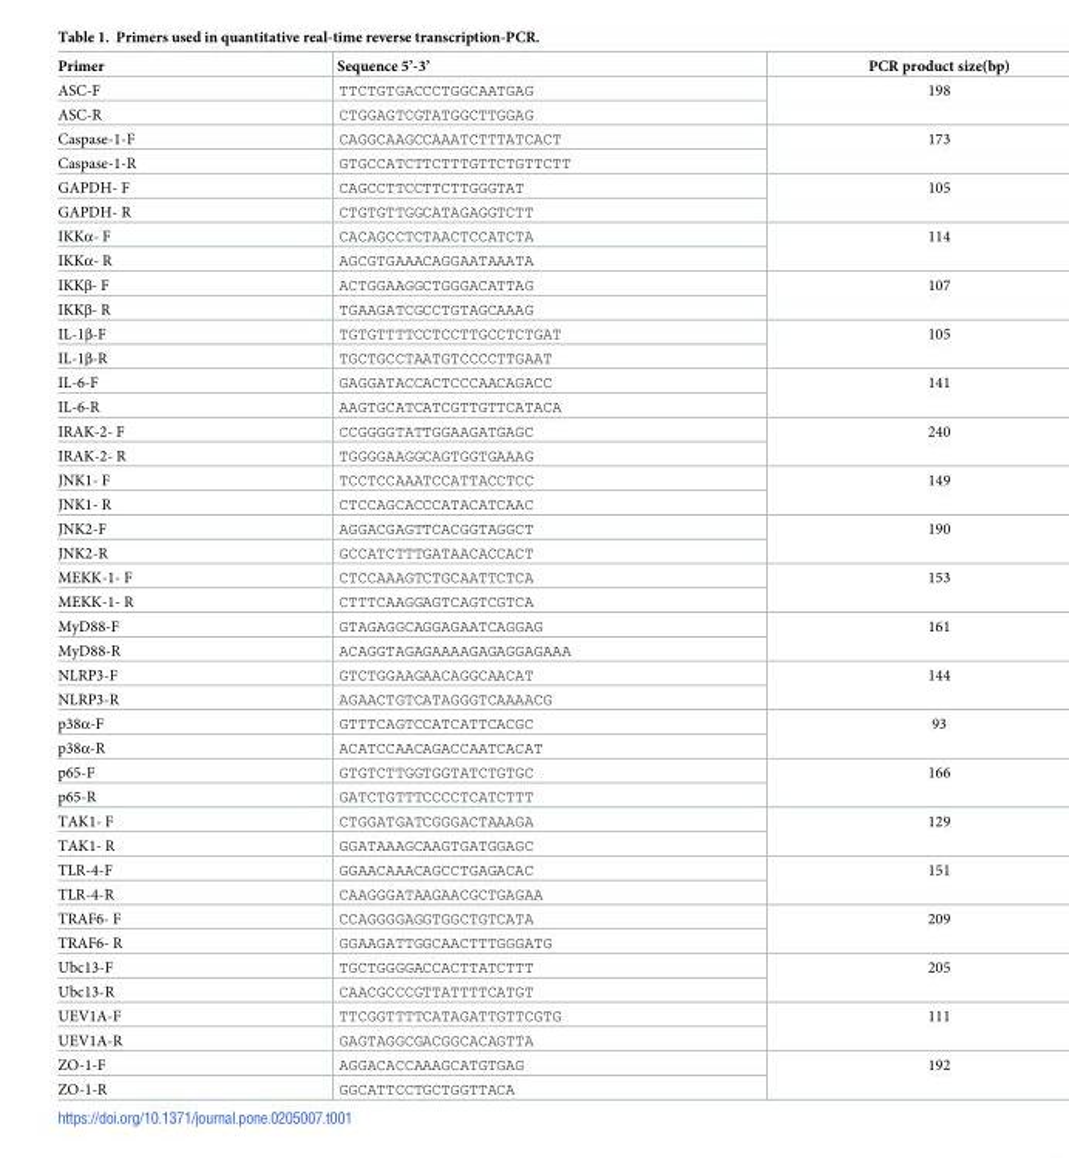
<table><thead><tr><td>Primer</td><td>Sequence 5’-3’</td><td>PCR product size(bp)</td></tr></thead><tbody><tr><td>ASC-F</td><td>TTCTGTGACCCTGGCAATGAG</td><td rowspan="2">198</td></tr><tr><td>ASC-R</td><td>CTGGAGTCGTATGGCTTGGAG</td></tr><tr><td>Caspase-1-F</td><td>CAGGCAAGCCAAATCTTTATCACT</td><td rowspan="2">173</td></tr><tr><td>Caspase-1-R</td><td>GTGCCATCTTCTTTGTTCTGTTCTT</td></tr><tr><td>GAPDH- F</td><td>CAGCCTTCCTTCTTGGGTAT</td><td rowspan="2">105</td></tr><tr><td>GAPDH- R</td><td>CTGTGTTGGCATAGAGGTCTT</td></tr><tr><td>IKKα- F</td><td>CACAGCCTCTAACTCCATCTA</td><td rowspan="2">114</td></tr><tr><td>IKKα- R</td><td>AGCGTGAAACAGGAATAAATA</td></tr><tr><td>IKKβ- F</td><td>ACTGGAAGGCTGGGACATTAG</td><td rowspan="2">107</td></tr><tr><td>IKKβ- R</td><td>TGAAGATCGCCTGTAGCAAAG</td></tr><tr><td>IL-1β-F</td><td>TGTGTTTTCCTCCTTGCCTCTGAT</td><td rowspan="2">105</td></tr><tr><td>IL-1β-R</td><td>TGCTGCCTAATGTCCCCTTGAAT</td></tr><tr><td>IL-6-F</td><td>GAGGATACCACTCCCAACAGACC</td><td rowspan="2">141</td></tr><tr><td>IL-6-R</td><td>AAGTGCATCATCGTTGTTCATACA</td></tr><tr><td>IRAK-2- F</td><td>CCGGGGTATTGGAAGATGAGC</td><td rowspan="2">240</td></tr><tr><td>IRAK-2- R</td><td>TGGGGAAGGCAGTGGTGAAAG</td></tr><tr><td>JNK1- F</td><td>TCCTCCAAATCCATTACCTCC</td><td rowspan="2">149</td></tr><tr><td>JNK1- R</td><td>CTCCAGCACCCATACATCAAC</td></tr><tr><td>JNK2-F</td><td>AGGACGAGTTCACGGTAGGCT</td><td rowspan="2">190</td></tr><tr><td>JNK2-R</td><td>GCCATCTTTGATAACACCACT</td></tr><tr><td>MEKK-1- F</td><td>CTCCAAAGTCTGCAATTCTCA</td><td rowspan="2">153</td></tr><tr><td>MEKK-1- R</td><td>CTTTCAAGGAGTCAGTCGTCA</td></tr><tr><td>MyD88-F</td><td>GTAGAGGCAGGAGAATCAGGAG</td><td rowspan="2">161</td></tr><tr><td>MyD88-R</td><td>ACAGGTAGAGAAAAGAGAGGAGAAA</td></tr><tr><td>NLRP3-F</td><td>GTCTGGAAGAACAGGCAACAT</td><td rowspan="2">144</td></tr><tr><td>NLRP3-R</td><td>AGAACTGTCATAGGGTCAAAACG</td></tr><tr><td>p38α-F</td><td>GTTTCAGTCCATCATTCACGC</td><td rowspan="2">93</td></tr><tr><td>p38α-R</td><td>ACATCCAACAGACCAATCACAT</td></tr><tr><td>p65-F</td><td>GTGTCTTGGTGGTATCTGTGC</td><td rowspan="2">166</td></tr><tr><td>p65-R</td><td>GATCTGTTTCCCCTCATCTTT</td></tr><tr><td>TAK1- F</td><td>CTGGATGATCGGGACTAAAGA</td><td rowspan="2">129</td></tr><tr><td>TAK1- R</td><td>GGATAAAGCAAGTGATGGAGC</td></tr><tr><td>TLR-4-F</td><td>GGAACAAACAGCCTGAGACAC</td><td rowspan="2">151</td></tr><tr><td>TLR-4-R</td><td>CAAGGGATAAGAACGCTGAGAA</td></tr><tr><td>TRAF6- F</td><td>CCAGGGGAGGTGGCTGTCATA</td><td rowspan="2">209</td></tr><tr><td>TRAF6- R</td><td>GGAAGATTGGCAACTTTGGGATG</td></tr><tr><td>Ubc13-F</td><td>TGCTGGGGACCACTTATCTTT</td><td rowspan="2">205</td></tr><tr><td>Ubc13-R</td><td>CAACGCCCGTTATTTTCATGT</td></tr><tr><td>UEV1A-F</td><td>TTCGGTTTTCATAGATTGTTCGTG</td><td rowspan="2">111</td></tr><tr><td>UEV1A-R</td><td>GAGTAGGCGACGGCACAGTTA</td></tr><tr><td>ZO-1-F</td><td>AGGACACCAAAGCATGTGAG</td><td rowspan="2">192</td></tr><tr><td>ZO-1-R</td><td>GGCATTCCTGCTGGTTACA</td></tr></tbody></table>